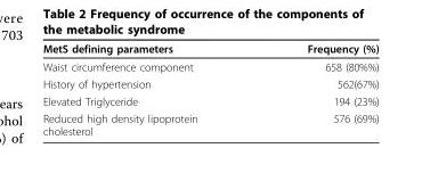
<table><thead><tr><td>MetS defining parameters</td><td>Frequency (%)</td></tr></thead><tbody><tr><td>Waist circumference component</td><td>658 (80%%)</td></tr><tr><td>History of hypertension</td><td>562(67%)</td></tr><tr><td>Elevated Triglyceride</td><td>194 (23%)</td></tr><tr><td>Reduced high density lipoprotein cholesterol</td><td>576 (69%)</td></tr></tbody></table>